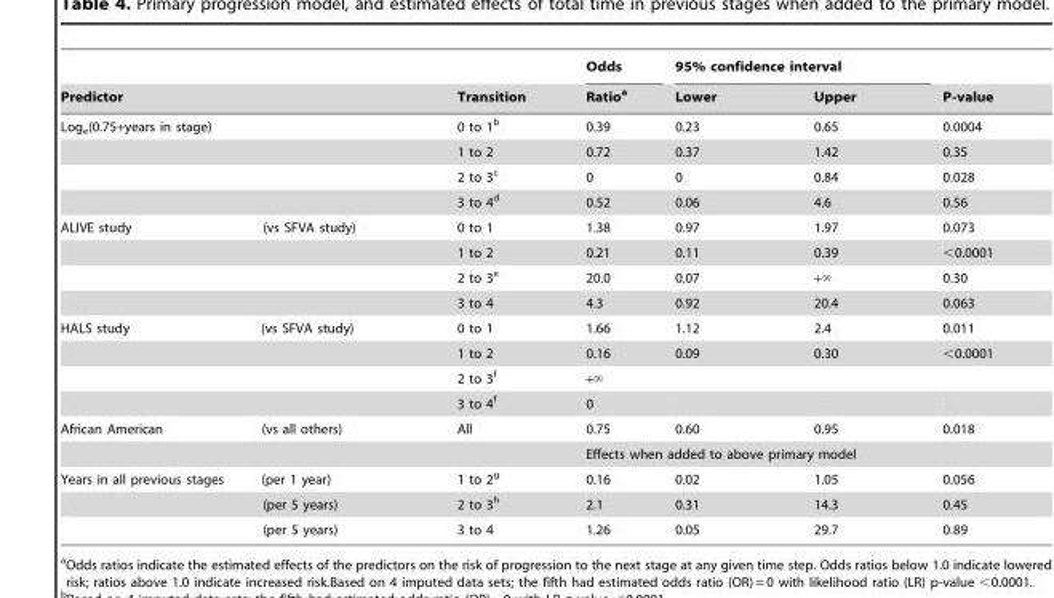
<table><thead><tr><td rowspan="2">Predictor</td><td rowspan="2">Transition</td><td rowspan="2">Odds Ratio<sup>a</sup></td><td colspan="2">95% confidence interval</td><td rowspan="2">P-value</td></tr><tr><td>Lower</td><td>Upper</td></tr></thead><tbody><tr><td rowspan="4">Log<sub>e</sub>(0.75+years in stage)</td><td>0 to 1<sup>b</sup></td><td>0.39</td><td>0.23</td><td>0.65</td><td>0.0004</td></tr><tr><td>1 to 2</td><td>0.72</td><td>0.37</td><td>1.42</td><td>0.35</td></tr><tr><td>2 to 3<sup>c</sup></td><td>0</td><td>0</td><td>0.84</td><td>0.028</td></tr><tr><td>3 to 4<sup>d</sup></td><td>0.52</td><td>0.06</td><td>4.6</td><td>0.56</td></tr><tr><td rowspan="4">ALIVE study (vs SFVA study)</td><td>0 to 1</td><td>1.38</td><td>0.97</td><td>1.97</td><td>0.073</td></tr><tr><td>1 to 2</td><td>0.21</td><td>0.11</td><td>0.39</td><td>&lt;0.0001</td></tr><tr><td>2 to 3<sup>e</sup></td><td>20.0</td><td>0.07</td><td>+‘</td><td>0.30</td></tr><tr><td>3 to 4</td><td>4.3</td><td>0.92</td><td>20.4</td><td>0.063</td></tr><tr><td rowspan="4">HALS study (vs SFVA study)</td><td>0 to 1</td><td>1.66</td><td>1.12</td><td>2.4</td><td>0.011</td></tr><tr><td>1 to 2</td><td>0.16</td><td>0.09</td><td>0.30</td><td>&lt;0.0001</td></tr><tr><td>2 to 3<sup>f</sup></td><td>+‘</td><td></td><td></td><td></td></tr><tr><td>3 to 4<sup>f</sup></td><td>0</td><td></td><td></td><td></td></tr><tr><td rowspan="2">African American (vs all others)</td><td>All</td><td>0.75</td><td>0.60</td><td>0.95</td><td>0.018</td></tr><tr><td></td><td colspan="4">Effects when added to above primary model</td></tr><tr><td>Years in all previous stages (per 1 year)</td><td>1 to 2<sup>g</sup></td><td>0.16</td><td>0.02</td><td>1.05</td><td>0.056</td></tr><tr><td>(per 5 years)</td><td>2 to 3<sup>h</sup></td><td>2.1</td><td>0.31</td><td>14.3</td><td>0.45</td></tr><tr><td>(per 5 years)</td><td>3 to 4</td><td>1.26</td><td>0.05</td><td>29.7</td><td>0.89</td></tr></tbody></table>